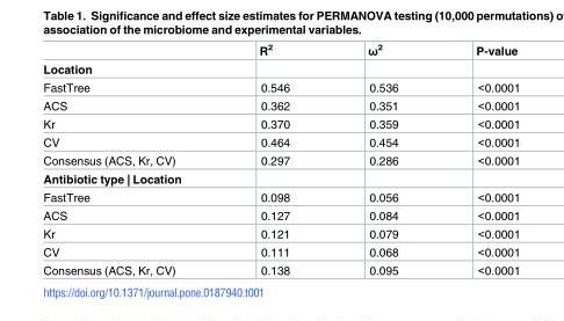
<table><thead><tr><td></td><td>R<sup>2</sup></td><td>ω<sup>2</sup></td><td>P-value</td></tr></thead><tbody><tr><td colspan="4">Location</td></tr><tr><td>FastTree</td><td>0.546</td><td>0.536</td><td>&lt;0.0001</td></tr><tr><td>ACS</td><td>0.362</td><td>0.351</td><td>&lt;0.0001</td></tr><tr><td>Kr</td><td>0.370</td><td>0.359</td><td>&lt;0.0001</td></tr><tr><td>CV</td><td>0.464</td><td>0.454</td><td>&lt;0.0001</td></tr><tr><td>Consensus (ACS, Kr, CV)</td><td>0.297</td><td>0.286</td><td>&lt;0.0001</td></tr><tr><td colspan="4">Antibiotic type | Location</td></tr><tr><td>FastTree</td><td>0.098</td><td>0.056</td><td>&lt;0.0001</td></tr><tr><td>ACS</td><td>0.127</td><td>0.084</td><td>&lt;0.0001</td></tr><tr><td>Kr</td><td>0.121</td><td>0.079</td><td>&lt;0.0001</td></tr><tr><td>CV</td><td>0.111</td><td>0.068</td><td>&lt;0.0001</td></tr><tr><td>Consensus (ACS, Kr, CV)</td><td>0.138</td><td>0.095</td><td>&lt;0.0001</td></tr></tbody></table>